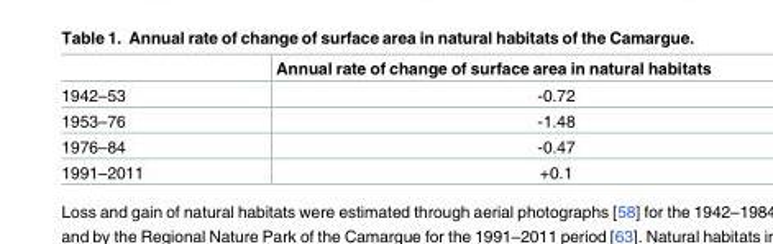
<table><thead><tr><td></td><td>Annual rate of change of surface area in natural habitats</td></tr></thead><tbody><tr><td>1942–53</td><td>-0.72</td></tr><tr><td>1953–76</td><td>-1.48</td></tr><tr><td>1976–84</td><td>-0.47</td></tr><tr><td>1991–2011</td><td>+0.1</td></tr></tbody></table>